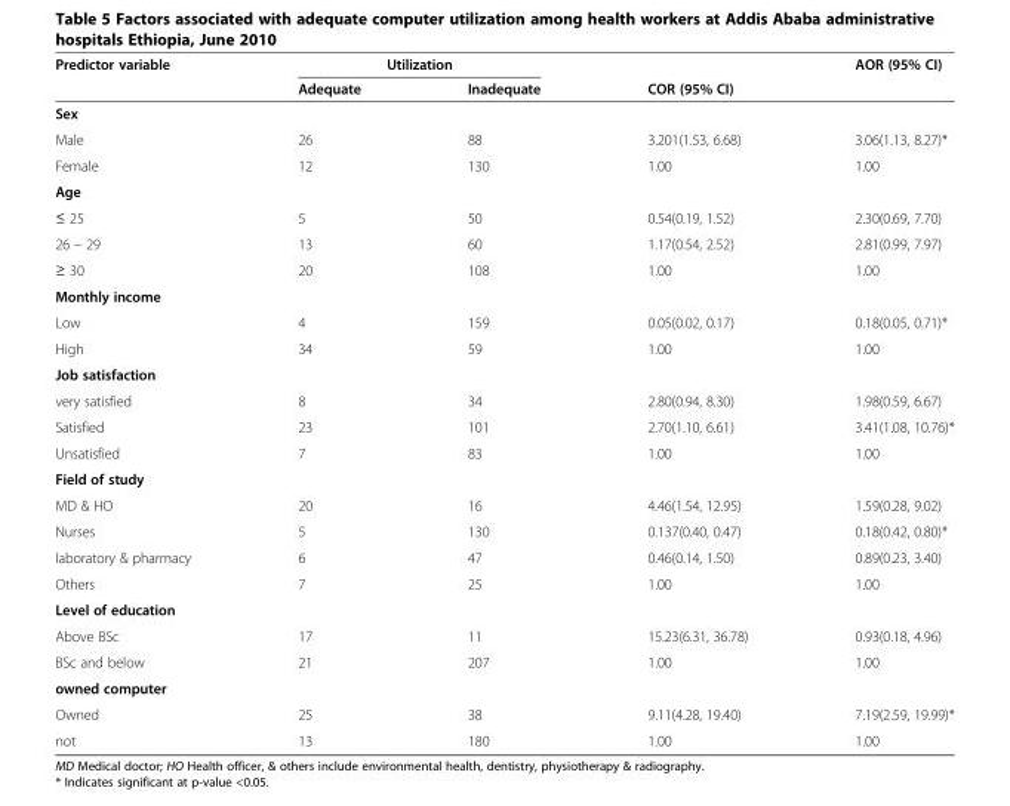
<table><thead><tr><td rowspan="2">Predictor variable</td><td colspan="2">Utilization</td><td rowspan="2">COR (95% CI)</td><td rowspan="2">AOR (95% CI)</td></tr><tr><td>Adequate</td><td>Inadequate</td></tr></thead><tbody><tr><td colspan="5">Sex</td></tr><tr><td>Male</td><td>26</td><td>88</td><td>3.201(1.53, 6.68)</td><td>3.06(1.13, 8.27)*</td></tr><tr><td>Female</td><td>12</td><td>130</td><td>1.00</td><td>1.00</td></tr><tr><td colspan="5">Age</td></tr><tr><td>≤ 25</td><td>5</td><td>50</td><td>0.54(0.19, 1.52)</td><td>2.30(0.69, 7.70)</td></tr><tr><td>26 – 29</td><td>13</td><td>60</td><td>1.17(0.54, 2.52)</td><td>2.81(0.99, 7.97)</td></tr><tr><td>≥ 30</td><td>20</td><td>108</td><td>1.00</td><td>1.00</td></tr><tr><td colspan="5">Monthly income</td></tr><tr><td>Low</td><td>4</td><td>159</td><td>0.05(0.02, 0.17)</td><td>0.18(0.05, 0.71)*</td></tr><tr><td>High</td><td>34</td><td>59</td><td>1.00</td><td>1.00</td></tr><tr><td colspan="5">Job satisfaction</td></tr><tr><td>very satisfied</td><td>8</td><td>34</td><td>2.80(0.94, 8.30)</td><td>1.98(0.59, 6.67)</td></tr><tr><td>Satisfied</td><td>23</td><td>101</td><td>2.70(1.10, 6.61)</td><td>3.41(1.08, 10.76)*</td></tr><tr><td>Unsatisfied</td><td>7</td><td>83</td><td>1.00</td><td>1.00</td></tr><tr><td colspan="5">Field of study</td></tr><tr><td>MD &amp; HO</td><td>20</td><td>16</td><td>4.46(1.54, 12.95)</td><td>1.59(0.28, 9.02)</td></tr><tr><td>Nurses</td><td>5</td><td>130</td><td>0.137(0.40, 0.47)</td><td>0.18(0.42, 0.80)*</td></tr><tr><td>laboratory &amp; pharmacy</td><td>6</td><td>47</td><td>0.46(0.14, 1.50)</td><td>0.89(0.23, 3.40)</td></tr><tr><td>Others</td><td>7</td><td>25</td><td>1.00</td><td>1.00</td></tr><tr><td colspan="5">Level of education</td></tr><tr><td>Above BSc</td><td>17</td><td>11</td><td>15.23(6.31, 36.78)</td><td>0.93(0.18, 4.96)</td></tr><tr><td>BSc and below</td><td>21</td><td>207</td><td>1.00</td><td>1.00</td></tr><tr><td colspan="5">owned computer</td></tr><tr><td>Owned</td><td>25</td><td>38</td><td>9.11(4.28, 19.40)</td><td>7.19(2.59, 19.99)*</td></tr><tr><td>not</td><td>13</td><td>180</td><td>1.00</td><td>1.00</td></tr></tbody></table>